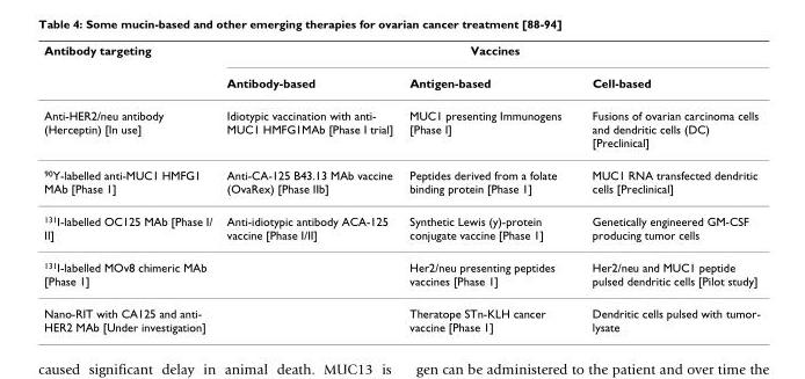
<table><thead><tr><td rowspan="2">Antibody targeting</td><td colspan="3">Vaccines</td></tr><tr><td>Antibody-based</td><td>Antigen-based</td><td>Cell-based</td></tr></thead><tbody><tr><td>Anti-HER2/neu antibody (Herceptin) [In use]</td><td>Idiotypic vaccination with anti- MUC1 HMFG1MAb [Phase I trial]</td><td>MUC1 presenting Immunogens [Phase I]</td><td>Fusions of ovarian carcinoma cells and dendritic cells (DC) [Preclinical]</td></tr><tr><td><sup>90</sup>Y-labelled anti-MUC1 HMFG1 MAb [Phase 1]</td><td>Anti-CA-125 B43.13 MAb vaccine (OvaRex) [Phase IIb]</td><td>Peptides derived from a folate binding protein [Phase 1]</td><td>MUC1 RNA transfected dendritic cells [Preclinical]</td></tr><tr><td><sup>131</sup>I-labelled OC125 MAb [Phase I/ II]</td><td>Anti-idiotypic antibody ACA-125 vaccine [Phase I/II]</td><td>Synthetic Lewis (y)-protein conjugate vaccine [Phase 1]</td><td>Genetically engineered GM-CSF producing tumor cells</td></tr><tr><td><sup>131</sup>I-labelled MOv8 chimeric MAb [Phase 1]</td><td></td><td>Her2/neu presenting peptides vaccines [Phase 1]</td><td>Her2/neu and MUC1 peptide pulsed dendritic cells [Pilot study]</td></tr><tr><td>Nano-RIT with CA125 and anti- HER2 MAb [Under investigation]</td><td></td><td>Theratope STn-KLH cancer vaccine [Phase 1]</td><td>Dendritic cells pulsed with tumor- lysate</td></tr></tbody></table>